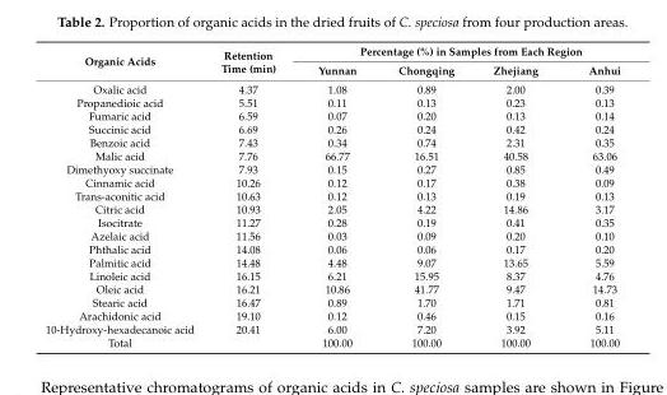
<table><thead><tr><td rowspan="2">Organic Acids</td><td rowspan="2">Retention Time (min)</td><td colspan="4">Percentage (%) in Samples from Each Region</td></tr><tr><td>Yunnan</td><td>Chongqing</td><td>Zhejiang</td><td>Anhui</td></tr></thead><tbody><tr><td>Oxalic acid</td><td>4.37</td><td>1.08</td><td>0.89</td><td>2.00</td><td>0.39</td></tr><tr><td>Propanedioic acid</td><td>5.51</td><td>0.11</td><td>0.13</td><td>0.23</td><td>0.13</td></tr><tr><td>Fumaric acid</td><td>6.59</td><td>0.07</td><td>0.20</td><td>0.13</td><td>0.14</td></tr><tr><td>Succinic acid</td><td>6.69</td><td>0.26</td><td>0.24</td><td>0.42</td><td>0.24</td></tr><tr><td>Benzoic acid</td><td>7.43</td><td>0.34</td><td>0.74</td><td>2.31</td><td>0.35</td></tr><tr><td>Malic acid</td><td>7.76</td><td>66.77</td><td>16.51</td><td>40.58</td><td>63.06</td></tr><tr><td>Dimethyoxy succinate</td><td>7.93</td><td>0.15</td><td>0.27</td><td>0.85</td><td>0.49</td></tr><tr><td>Cinnamic acid</td><td>10.26</td><td>0.12</td><td>0.17</td><td>0.38</td><td>0.09</td></tr><tr><td>Trans-aconitic acid</td><td>10.63</td><td>0.12</td><td>0.13</td><td>0.19</td><td>0.13</td></tr><tr><td>Citric acid</td><td>10.93</td><td>2.05</td><td>4.22</td><td>14.86</td><td>3.17</td></tr><tr><td>Isocitrate</td><td>11.27</td><td>0.28</td><td>0.19</td><td>0.41</td><td>0.35</td></tr><tr><td>Azelaic acid</td><td>11.56</td><td>0.03</td><td>0.09</td><td>0.20</td><td>0.10</td></tr><tr><td>Phthalic acid</td><td>14.08</td><td>0.06</td><td>0.06</td><td>0.17</td><td>0.20</td></tr><tr><td>Palmitic acid</td><td>14.48</td><td>4.48</td><td>9.07</td><td>13.65</td><td>5.59</td></tr><tr><td>Linoleic acid</td><td>16.15</td><td>6.21</td><td>15.95</td><td>8.37</td><td>4.76</td></tr><tr><td>Oleic acid</td><td>16.21</td><td>10.86</td><td>41.77</td><td>9.47</td><td>14.73</td></tr><tr><td>Stearic acid</td><td>16.47</td><td>0.89</td><td>1.70</td><td>1.71</td><td>0.81</td></tr><tr><td>Arachidonic acid</td><td>19.10</td><td>0.12</td><td>0.46</td><td>0.15</td><td>0.16</td></tr><tr><td>10-Hydroxy-hexadecanoic acid</td><td>20.41</td><td>6.00</td><td>7.20</td><td>3.92</td><td>5.11</td></tr><tr><td>Total</td><td></td><td>100.00</td><td>100.00</td><td>100.00</td><td>100.00</td></tr></tbody></table>